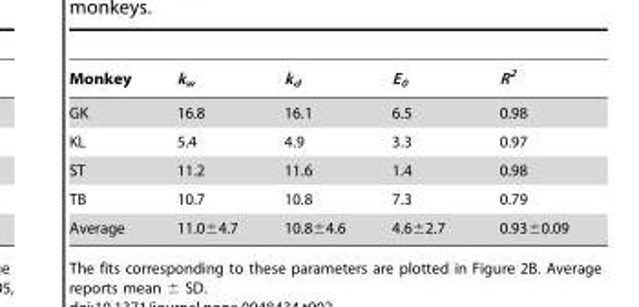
<table><thead><tr><td>Monkey</td><td>k<sub>w</sub></td><td>k<sub>d</sub></td><td>E<sub>0</sub></td><td>R<sup>2</sup></td></tr></thead><tbody><tr><td>GK</td><td>16.8</td><td>16.1</td><td>6.5</td><td>0.98</td></tr><tr><td>KL</td><td>5.4</td><td>4.9</td><td>3.3</td><td>0.97</td></tr><tr><td>ST</td><td>11.2</td><td>11.6</td><td>1.4</td><td>0.98</td></tr><tr><td>TB</td><td>10.7</td><td>10.8</td><td>7.3</td><td>0.79</td></tr><tr><td>Average</td><td>11.0±4.7</td><td>10.8±4.6</td><td>4.6±2.7</td><td>0.93±0.09</td></tr></tbody></table>